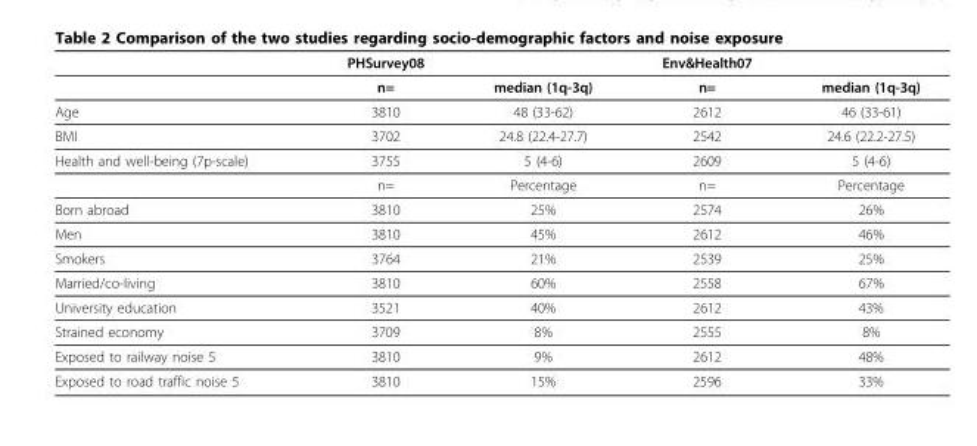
<table><thead><tr><td></td><td>PHSurvey08</td><td></td><td>Env&amp;Health07</td><td></td></tr></thead><tbody><tr><td></td><td>n=</td><td>median (1q-3q)</td><td>n=</td><td>median (1q-3q)</td></tr><tr><td>Age</td><td>3810</td><td>48 (33-62)</td><td>2612</td><td>46 (33-61)</td></tr><tr><td>BMI</td><td>3702</td><td>24.8 (22.4-27.7)</td><td>2542</td><td>24.6 (22.2-27.5)</td></tr><tr><td rowspan="2">Health and well-being (7p-scale)</td><td>3755</td><td>5 (4-6)</td><td>2609</td><td>5 (4-6)</td></tr><tr><td>n=</td><td>Percentage</td><td>n=</td><td>Percentage</td></tr><tr><td>Born abroad</td><td>3810</td><td>25%</td><td>2574</td><td>26%</td></tr><tr><td>Men</td><td>3810</td><td>45%</td><td>2612</td><td>46%</td></tr><tr><td>Smokers</td><td>3764</td><td>21%</td><td>2539</td><td>25%</td></tr><tr><td>Married/co-living</td><td>3810</td><td>60%</td><td>2558</td><td>67%</td></tr><tr><td>University education</td><td>3521</td><td>40%</td><td>2612</td><td>43%</td></tr><tr><td>Strained economy</td><td>3709</td><td>8%</td><td>2555</td><td>8%</td></tr><tr><td>Exposed to railway noise 5</td><td>3810</td><td>9%</td><td>2612</td><td>48%</td></tr><tr><td>Exposed to road traffic noise 5</td><td>3810</td><td>15%</td><td>2596</td><td>33%</td></tr></tbody></table>